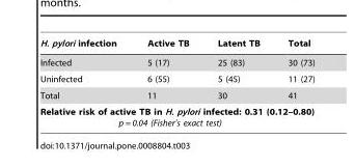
<table><thead><tr><td>H. pylori infection</td><td>Active TB</td><td>Latent TB</td><td>Total</td></tr></thead><tbody><tr><td>Infected</td><td>5 (17)</td><td>25 (83)</td><td>30 (73)</td></tr><tr><td>Uninfected</td><td>6 (55)</td><td>5 (45)</td><td>11 (27)</td></tr><tr><td>Total</td><td>11</td><td>30</td><td>41</td></tr><tr><td colspan="4">Relative risk of active TB in H. pylori infected: 0.31 (0.12–0.80) p = 0.04 (Fisher’s exact test)</td></tr></tbody></table>